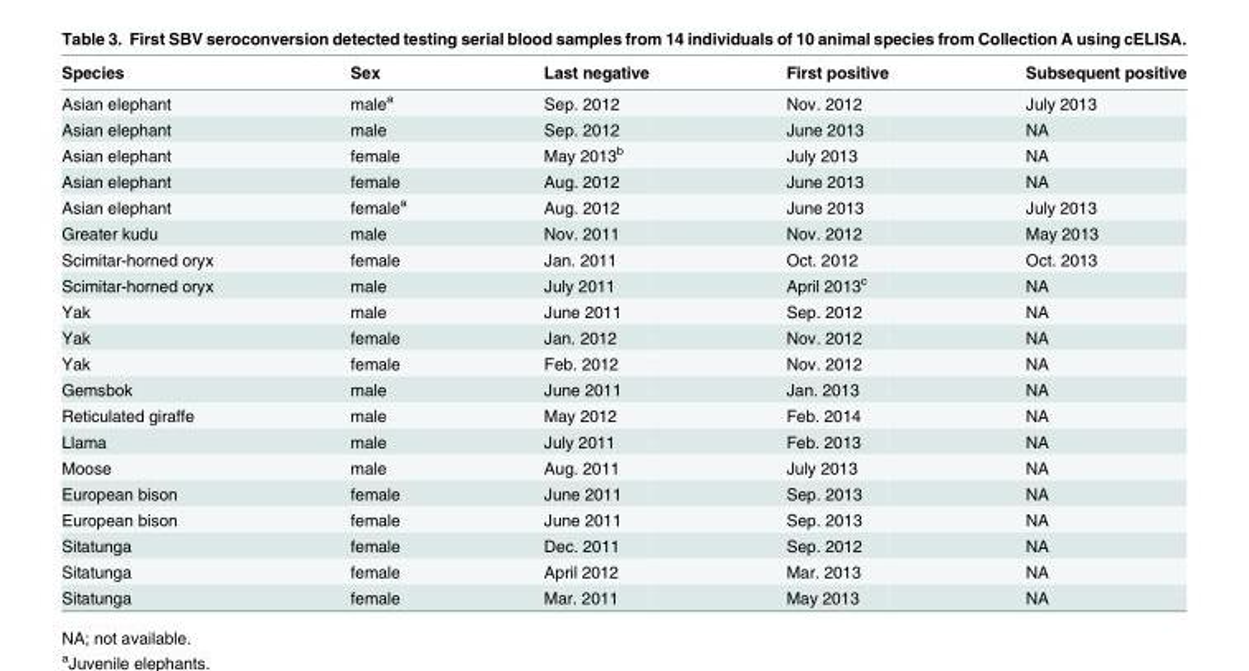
<table><thead><tr><td>Species</td><td>Sex</td><td>Last negative</td><td>First positive</td><td>Subsequent positive</td></tr></thead><tbody><tr><td>Asian elephant</td><td>male<sup>a</sup></td><td>Sep. 2012</td><td>Nov. 2012</td><td>July 2013</td></tr><tr><td>Asian elephant</td><td>male</td><td>Sep. 2012</td><td>June 2013</td><td>NA</td></tr><tr><td>Asian elephant</td><td>female</td><td>May 2013<sup>b</sup></td><td>July 2013</td><td>NA</td></tr><tr><td>Asian elephant</td><td>female</td><td>Aug. 2012</td><td>June 2013</td><td>NA</td></tr><tr><td>Asian elephant</td><td>female<sup>a</sup></td><td>Aug. 2012</td><td>June 2013</td><td>July 2013</td></tr><tr><td>Greater kudu</td><td>male</td><td>Nov. 2011</td><td>Nov. 2012</td><td>May 2013</td></tr><tr><td>Scimitar-horned oryx</td><td>female</td><td>Jan. 2011</td><td>Oct. 2012</td><td>Oct. 2013</td></tr><tr><td>Scimitar-horned oryx</td><td>male</td><td>July 2011</td><td>April 2013<sup>c</sup></td><td>NA</td></tr><tr><td>Yak</td><td>male</td><td>June 2011</td><td>Sep. 2012</td><td>NA</td></tr><tr><td>Yak</td><td>female</td><td>Jan. 2012</td><td>Nov. 2012</td><td>NA</td></tr><tr><td>Yak</td><td>female</td><td>Feb. 2012</td><td>Nov. 2012</td><td>NA</td></tr><tr><td>Gemsbok</td><td>male</td><td>June 2011</td><td>Jan. 2013</td><td>NA</td></tr><tr><td>Reticulated giraffe</td><td>male</td><td>May 2012</td><td>Feb. 2014</td><td>NA</td></tr><tr><td>Llama</td><td>male</td><td>July 2011</td><td>Feb. 2013</td><td>NA</td></tr><tr><td>Moose</td><td>male</td><td>Aug. 2011</td><td>July 2013</td><td>NA</td></tr><tr><td>European bison</td><td>female</td><td>June 2011</td><td>Sep. 2013</td><td>NA</td></tr><tr><td>European bison</td><td>female</td><td>June 2011</td><td>Sep. 2013</td><td>NA</td></tr><tr><td>Sitatunga</td><td>female</td><td>Dec. 2011</td><td>Sep. 2012</td><td>NA</td></tr><tr><td>Sitatunga</td><td>female</td><td>April 2012</td><td>Mar. 2013</td><td>NA</td></tr><tr><td>Sitatunga</td><td>female</td><td>Mar. 2011</td><td>May 2013</td><td>NA</td></tr></tbody></table>